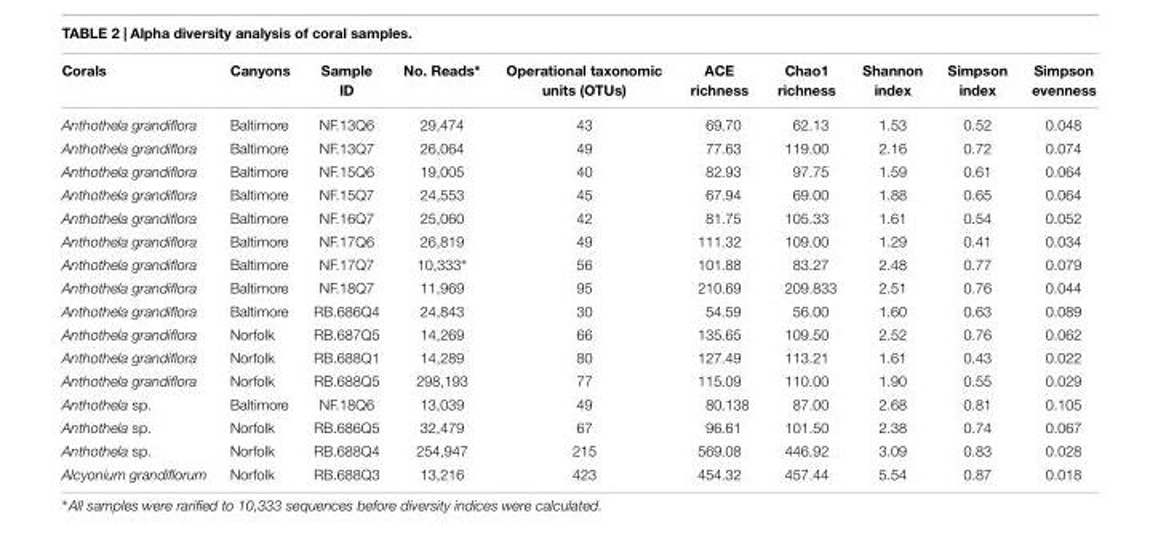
<table><thead><tr><td>Corals</td><td>Canyons</td><td>Sample ID</td><td>No. Reads∗</td><td>Operational taxonomic units (OTUs)</td><td>ACE richness</td><td>Chao1 richness</td><td>Shannon index</td><td>Simpson index</td><td>Simpson evenness</td></tr></thead><tbody><tr><td>Anthothela grandiflora</td><td>Baltimore</td><td>NF.13Q6</td><td>29,474</td><td>43</td><td>69.70</td><td>62.13</td><td>1.53</td><td>0.52</td><td>0.048</td></tr><tr><td>Anthothela grandiflora</td><td>Baltimore</td><td>NF.13Q7</td><td>26,064</td><td>49</td><td>77.63</td><td>119.00</td><td>2.16</td><td>0.72</td><td>0.074</td></tr><tr><td>Anthothela grandiflora</td><td>Baltimore</td><td>NF.15Q6</td><td>19,005</td><td>40</td><td>82.93</td><td>97.75</td><td>1.59</td><td>0.61</td><td>0.064</td></tr><tr><td>Anthothela grandiflora</td><td>Baltimore</td><td>NF.15Q7</td><td>24,553</td><td>45</td><td>67.94</td><td>69.00</td><td>1.88</td><td>0.65</td><td>0.064</td></tr><tr><td>Anthothela grandiflora</td><td>Baltimore</td><td>NF.16Q7</td><td>25,060</td><td>42</td><td>81.75</td><td>105.33</td><td>1.61</td><td>0.54</td><td>0.052</td></tr><tr><td>Anthothela grandiflora</td><td>Baltimore</td><td>NF.17Q6</td><td>26,819</td><td>49</td><td>111.32</td><td>109.00</td><td>1.29</td><td>0.41</td><td>0.034</td></tr><tr><td>Anthothela grandiflora</td><td>Baltimore</td><td>NF.17Q7</td><td>10,333∗</td><td>56</td><td>101.88</td><td>83.27</td><td>2.48</td><td>0.77</td><td>0.079</td></tr><tr><td>Anthothela grandiflora</td><td>Baltimore</td><td>NF.18Q7</td><td>11,969</td><td>95</td><td>210.69</td><td>209.833</td><td>2.51</td><td>0.76</td><td>0.044</td></tr><tr><td>Anthothela grandiflora</td><td>Baltimore</td><td>RB.686Q4</td><td>24,843</td><td>30</td><td>54.59</td><td>56.00</td><td>1.60</td><td>0.63</td><td>0.089</td></tr><tr><td>Anthothela grandiflora</td><td>Norfolk</td><td>RB.687Q5</td><td>14,269</td><td>66</td><td>135.65</td><td>109.50</td><td>2.52</td><td>0.76</td><td>0.062</td></tr><tr><td>Anthothela grandiflora</td><td>Norfolk</td><td>RB.688Q1</td><td>14,289</td><td>80</td><td>127.49</td><td>113.21</td><td>1.61</td><td>0.43</td><td>0.022</td></tr><tr><td>Anthothela grandiflora</td><td>Norfolk</td><td>RB.688Q5</td><td>298,193</td><td>77</td><td>115.09</td><td>110.00</td><td>1.90</td><td>0.55</td><td>0.029</td></tr><tr><td>Anthothela sp.</td><td>Baltimore</td><td>NF.18Q6</td><td>13,039</td><td>49</td><td>80.138</td><td>87.00</td><td>2.68</td><td>0.81</td><td>0.105</td></tr><tr><td>Anthothela sp.</td><td>Norfolk</td><td>RB.686Q5</td><td>32,479</td><td>67</td><td>96.61</td><td>101.50</td><td>2.38</td><td>0.74</td><td>0.067</td></tr><tr><td>Anthothela sp.</td><td>Norfolk</td><td>RB.688Q4</td><td>254,947</td><td>215</td><td>569.08</td><td>446.92</td><td>3.09</td><td>0.83</td><td>0.028</td></tr><tr><td>Alcyonium grandiflorum</td><td>Norfolk</td><td>RB.688Q3</td><td>13,216</td><td>423</td><td>454.32</td><td>457.44</td><td>5.54</td><td>0.87</td><td>0.018</td></tr></tbody></table>